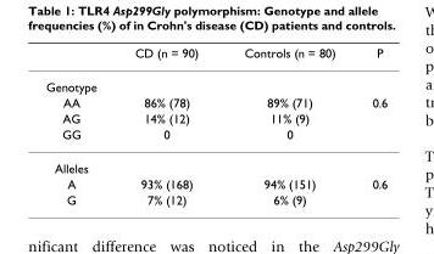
<table><thead><tr><td></td><td>CD (n = 90)</td><td>Controls (n = 80)</td><td>P</td></tr></thead><tbody><tr><td colspan="4">Genotype</td></tr><tr><td>AA</td><td>86% (78)</td><td>89% (71)</td><td>0.6</td></tr><tr><td>AG</td><td>14% (12)</td><td>11% (9)</td><td></td></tr><tr><td>GG</td><td>0</td><td>0</td><td></td></tr><tr><td colspan="4">Alleles</td></tr><tr><td>A</td><td>93% (168)</td><td>94% (151)</td><td>0.6</td></tr><tr><td>G</td><td>7% (12)</td><td>6% (9)</td><td></td></tr></tbody></table>